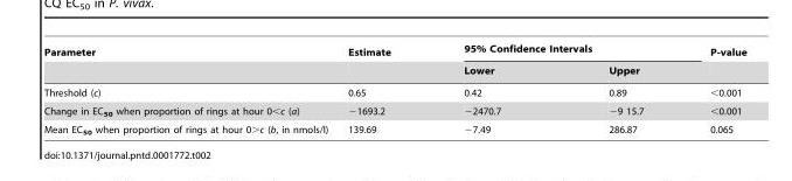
<table><thead><tr><td rowspan="2">Parameter</td><td rowspan="2">Estimate</td><td colspan="2">95% Confidence Intervals</td><td rowspan="2">P-value</td></tr><tr><td>Lower</td><td>Upper</td></tr></thead><tbody><tr><td>Threshold (c)</td><td>0.65</td><td>0.42</td><td>0.89</td><td>&lt;0.001</td></tr><tr><td>Change in EC<sub>50</sub> when proportion of rings at hour 0&lt;c (a)</td><td>−1693.2</td><td>−2470.7</td><td>−9 15.7</td><td>&lt;0.001</td></tr><tr><td>Mean EC<sub>50</sub> when proportion of rings at hour 0&gt;c (b, in nmols/l)</td><td>139.69</td><td>−7.49</td><td>286.87</td><td>0.065</td></tr></tbody></table>